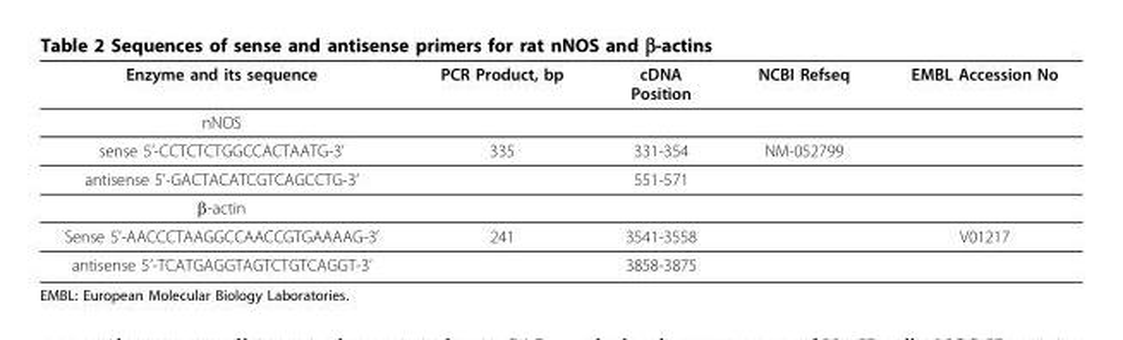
<table><thead><tr><td>Enzyme and its sequence</td><td>PCR Product, bp</td><td>cDNA Position</td><td>NCBI Refseq</td><td>EMBL Accession No</td></tr></thead><tbody><tr><td colspan="5">nNOS</td></tr><tr><td>sense 5’-CCTCTCTGGCCACTAATG-3’</td><td>335</td><td>331-354</td><td>NM-052799</td><td></td></tr><tr><td>antisense 5’-GACTACATCGTCAGCCTG-3’</td><td></td><td>551-571</td><td></td><td></td></tr><tr><td colspan="5">β-actin</td></tr><tr><td>Sense 5’-AACCCTAAGGCCAACCGTGAAAAG-3’</td><td>241</td><td>3541-3558</td><td></td><td>V01217</td></tr><tr><td>antisense 5’-TCATGAGGTAGTCTGTCAGGT-3’</td><td></td><td>3858-3875</td><td></td><td></td></tr></tbody></table>